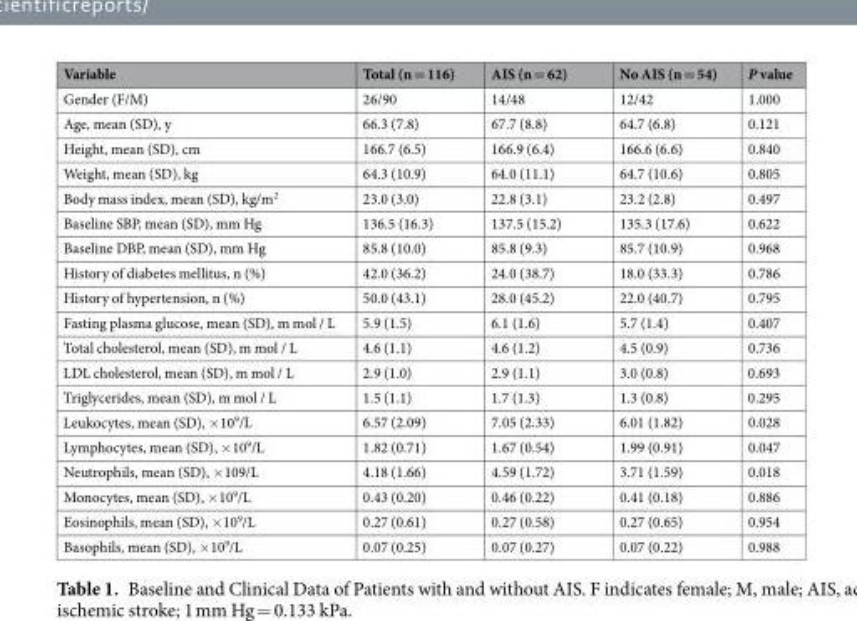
<table><thead><tr><td>Variable</td><td>Total (n = 116)</td><td>AIS (n = 62)</td><td>No AIS (n = 54)</td><td>P value</td></tr></thead><tbody><tr><td>Gender (F/M)</td><td>26/90</td><td>14/48</td><td>12/42</td><td>1.000</td></tr><tr><td>Age, mean (SD), y</td><td>66.3 (7.8)</td><td>67.7 (8.8)</td><td>64.7 (6.8)</td><td>0.121</td></tr><tr><td>Height, mean (SD), cm</td><td>166.7 (6.5)</td><td>166.9 (6.4)</td><td>166.6 (6.6)</td><td>0.840</td></tr><tr><td>Weight, mean (SD), kg</td><td>64.3 (10.9)</td><td>64.0 (11.1)</td><td>64.7 (10.6)</td><td>0.805</td></tr><tr><td>Body mass index, mean (SD), kg/m<sup>2</sup></td><td>23.0 (3.0)</td><td>22.8 (3.1)</td><td>23.2 (2.8)</td><td>0.497</td></tr><tr><td>Baseline SBP, mean (SD), mm Hg</td><td>136.5 (16.3)</td><td>137.5 (15.2)</td><td>135.3 (17.6)</td><td>0.622</td></tr><tr><td>Baseline DBP, mean (SD), mm Hg</td><td>85.8 (10.0)</td><td>85.8 (9.3)</td><td>85.7 (10.9)</td><td>0.968</td></tr><tr><td>History of diabetes mellitus, n (%)</td><td>42.0 (36.2)</td><td>24.0 (38.7)</td><td>18.0 (33.3)</td><td>0.786</td></tr><tr><td>History of hypertension, n (%)</td><td>50.0 (43.1)</td><td>28.0 (45.2)</td><td>22.0 (40.7)</td><td>0.795</td></tr><tr><td>Fasting plasma glucose, mean (SD), m mol / L</td><td>5.9 (1.5)</td><td>6.1 (1.6)</td><td>5.7 (1.4)</td><td>0.407</td></tr><tr><td>Total cholesterol, mean (SD), m mol / L</td><td>4.6 (1.1)</td><td>4.6 (1.2)</td><td>4.5 (0.9)</td><td>0.736</td></tr><tr><td>LDL cholesterol, mean (SD), m mol / L</td><td>2.9 (1.0)</td><td>2.9 (1.1)</td><td>3.0 (0.8)</td><td>0.693</td></tr><tr><td>Triglycerides, mean (SD), m mol / L</td><td>1.5 (1.1)</td><td>1.7 (1.3)</td><td>1.3 (0.8)</td><td>0.295</td></tr><tr><td>Leukocytes, mean (SD), ×10<sup>9</sup>/L</td><td>6.57 (2.09)</td><td>7.05 (2.33)</td><td>6.01 (1.82)</td><td>0.028</td></tr><tr><td>Lymphocytes, mean (SD), ×10<sup>9</sup>/L</td><td>1.82 (0.71)</td><td>1.67 (0.54)</td><td>1.99 (0.91)</td><td>0.047</td></tr><tr><td>Neutrophils, mean (SD), ×109/L</td><td>4.18 (1.66)</td><td>4.59 (1.72)</td><td>3.71 (1.59)</td><td>0.018</td></tr><tr><td>Monocytes, mean (SD), ×10<sup>9</sup>/L</td><td>0.43 (0.20)</td><td>0.46 (0.22)</td><td>0.41 (0.18)</td><td>0.886</td></tr><tr><td>Eosinophils, mean (SD), ×10<sup>9</sup>/L</td><td>0.27 (0.61)</td><td>0.27 (0.58)</td><td>0.27 (0.65)</td><td>0.954</td></tr><tr><td>Basophils, mean (SD), ×10<sup>9</sup>/L</td><td>0.07 (0.25)</td><td>0.07 (0.27)</td><td>0.07 (0.22)</td><td>0.988</td></tr></tbody></table>